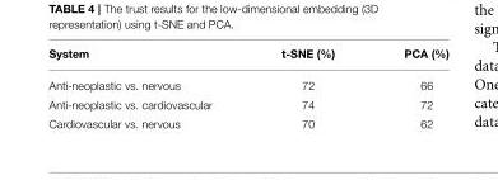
<table><thead><tr><td>System</td><td>t-SNE (%)</td><td>PCA (%)</td></tr></thead><tbody><tr><td>Anti-neoplastic vs. nervous</td><td>72</td><td>66</td></tr><tr><td>Anti-neoplastic vs. cardiovascular</td><td>74</td><td>72</td></tr><tr><td>Cardiovascular vs. nervous</td><td>70</td><td>62</td></tr></tbody></table>